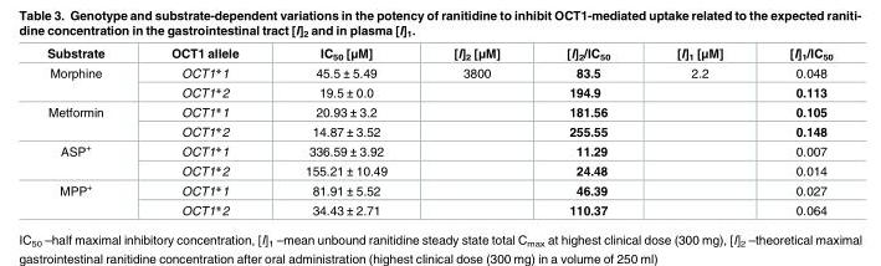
<table><thead><tr><td>Substrate</td><td>OCT1 allele</td><td>IC<sub>50</sub> [μM]</td><td>[I]<sub>2</sub> [μM]</td><td>[I]<sub>2</sub>/IC<sub>50</sub></td><td>[I]<sub>1</sub> [μM]</td><td>[I]<sub>1</sub>/IC<sub>50</sub></td></tr></thead><tbody><tr><td rowspan="2">Morphine</td><td>OCT1*1</td><td>45.5 ± 5.49</td><td>3800</td><td>83.5</td><td>2.2</td><td>0.048</td></tr><tr><td>OCT1*2</td><td>19.5 ± 0.0</td><td></td><td>194.9</td><td></td><td>0.113</td></tr><tr><td rowspan="2">Metformin</td><td>OCT1*1</td><td>20.93 ± 3.2</td><td></td><td>181.56</td><td></td><td>0.105</td></tr><tr><td>OCT1*2</td><td>14.87 ± 3.52</td><td></td><td>255.55</td><td></td><td>0.148</td></tr><tr><td rowspan="2">ASP<sup>+</sup></td><td>OCT1*1</td><td>336.59 ± 3.92</td><td></td><td>11.29</td><td></td><td>0.007</td></tr><tr><td>OCT1*2</td><td>155.21 ± 10.49</td><td></td><td>24.48</td><td></td><td>0.014</td></tr><tr><td rowspan="2">MPP<sup>+</sup></td><td>OCT1*1</td><td>81.91 ± 5.52</td><td></td><td>46.39</td><td></td><td>0.027</td></tr><tr><td>OCT1*2</td><td>34.43 ± 2.71</td><td></td><td>110.37</td><td></td><td>0.064</td></tr></tbody></table>